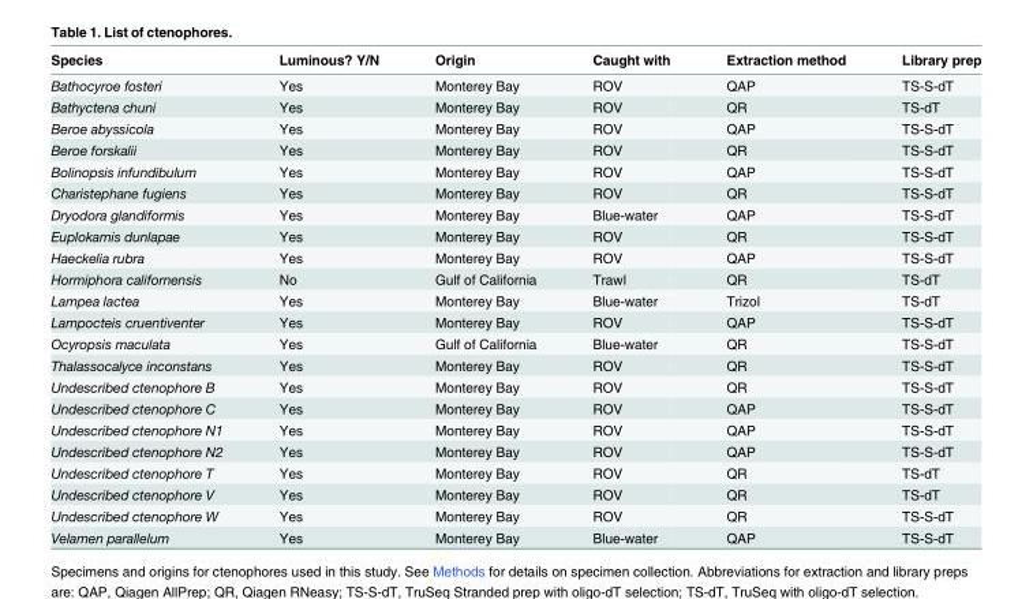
<table><thead><tr><td>Species</td><td>Luminous? Y/N</td><td>Origin</td><td>Caught with</td><td>Extraction method</td><td>Library prep</td></tr></thead><tbody><tr><td>Bathocyroe fosteri</td><td>Yes</td><td>Monterey Bay</td><td>ROV</td><td>QAP</td><td>TS-S-dT</td></tr><tr><td>Bathyctena chuni</td><td>Yes</td><td>Monterey Bay</td><td>ROV</td><td>QR</td><td>TS-dT</td></tr><tr><td>Beroe abyssicola</td><td>Yes</td><td>Monterey Bay</td><td>ROV</td><td>QAP</td><td>TS-S-dT</td></tr><tr><td>Beroe forskalii</td><td>Yes</td><td>Monterey Bay</td><td>ROV</td><td>QR</td><td>TS-S-dT</td></tr><tr><td>Bolinopsis infundibulum</td><td>Yes</td><td>Monterey Bay</td><td>ROV</td><td>QAP</td><td>TS-S-dT</td></tr><tr><td>Charistephane fugiens</td><td>Yes</td><td>Monterey Bay</td><td>ROV</td><td>QR</td><td>TS-S-dT</td></tr><tr><td>Dryodora glandiformis</td><td>Yes</td><td>Monterey Bay</td><td>Blue-water</td><td>QAP</td><td>TS-S-dT</td></tr><tr><td>Euplokamis dunlapae</td><td>Yes</td><td>Monterey Bay</td><td>ROV</td><td>QR</td><td>TS-S-dT</td></tr><tr><td>Haeckelia rubra</td><td>Yes</td><td>Monterey Bay</td><td>ROV</td><td>QAP</td><td>TS-S-dT</td></tr><tr><td>Hormiphora californensis</td><td>No</td><td>Gulf of California</td><td>Trawl</td><td>QR</td><td>TS-dT</td></tr><tr><td>Lampea lactea</td><td>Yes</td><td>Monterey Bay</td><td>Blue-water</td><td>Trizol</td><td>TS-dT</td></tr><tr><td>Lampocteis cruentiventer</td><td>Yes</td><td>Monterey Bay</td><td>ROV</td><td>QAP</td><td>TS-S-dT</td></tr><tr><td>Ocyropsis maculata</td><td>Yes</td><td>Gulf of California</td><td>Blue-water</td><td>QR</td><td>TS-S-dT</td></tr><tr><td>Thalassocalyce inconstans</td><td>Yes</td><td>Monterey Bay</td><td>ROV</td><td>QR</td><td>TS-S-dT</td></tr><tr><td>Undescribed ctenophore B</td><td>Yes</td><td>Monterey Bay</td><td>ROV</td><td>QR</td><td>TS-S-dT</td></tr><tr><td>Undescribed ctenophore C</td><td>Yes</td><td>Monterey Bay</td><td>ROV</td><td>QAP</td><td>TS-S-dT</td></tr><tr><td>Undescribed ctenophore N1</td><td>Yes</td><td>Monterey Bay</td><td>ROV</td><td>QAP</td><td>TS-S-dT</td></tr><tr><td>Undescribed ctenophore N2</td><td>Yes</td><td>Monterey Bay</td><td>ROV</td><td>QAP</td><td>TS-S-dT</td></tr><tr><td>Undescribed ctenophore T</td><td>Yes</td><td>Monterey Bay</td><td>ROV</td><td>QR</td><td>TS-dT</td></tr><tr><td>Undescribed ctenophore V</td><td>Yes</td><td>Monterey Bay</td><td>ROV</td><td>QR</td><td>TS-dT</td></tr><tr><td>Undescribed ctenophore W</td><td>Yes</td><td>Monterey Bay</td><td>ROV</td><td>QR</td><td>TS-S-dT</td></tr><tr><td>Velamen parallelum</td><td>Yes</td><td>Monterey Bay</td><td>Blue-water</td><td>QAP</td><td>TS-S-dT</td></tr></tbody></table>